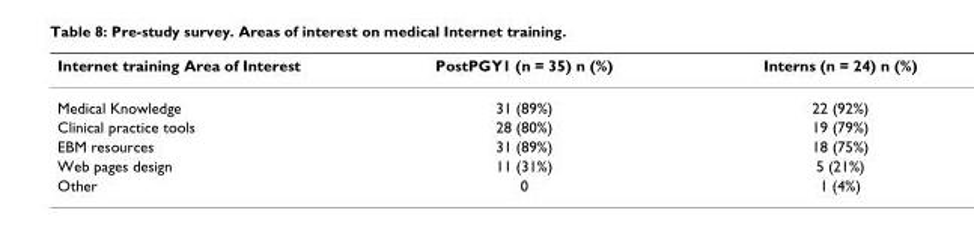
<table><thead><tr><td>Internet training Area of Interest</td><td>PostPGY1 (n = 35) n (%)</td><td>Interns (n = 24) n (%)</td></tr></thead><tbody><tr><td>Medical Knowledge</td><td>31 (89%)</td><td>22 (92%)</td></tr><tr><td>Clinical practice tools</td><td>28 (80%)</td><td>19 (79%)</td></tr><tr><td>EBM resources</td><td>31 (89%)</td><td>18 (75%)</td></tr><tr><td>Web pages design</td><td>11 (31%)</td><td>5 (21%)</td></tr><tr><td>Other</td><td>0</td><td>1 (4%)</td></tr></tbody></table>